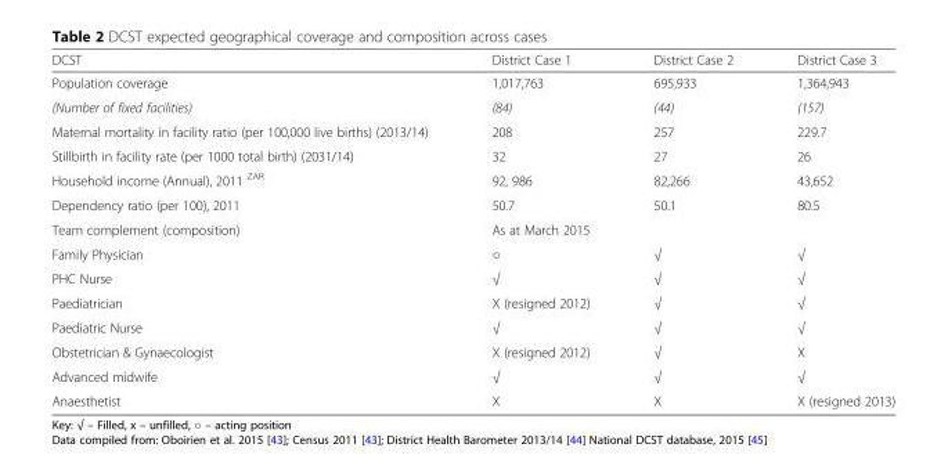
<table><thead><tr><td>DCST</td><td>District Case 1</td><td>District Case 2</td><td>District Case 3</td></tr></thead><tbody><tr><td>Population coverage</td><td>1,017,763</td><td>695,933</td><td>1,364,943</td></tr><tr><td>(Number of fixed facilities)</td><td>(84)</td><td>(44)</td><td>(157)</td></tr><tr><td>Maternal mortality in facility ratio (per 100,000 live births) (2013/14)</td><td>208</td><td>257</td><td>229.7</td></tr><tr><td>Stillbirth in facility rate (per 1000 total birth) (2031/14)</td><td>32</td><td>27</td><td>26</td></tr><tr><td>Household income (Annual), 2011 <sup>ZAR</sup></td><td>92, 986</td><td>82,266</td><td>43,652</td></tr><tr><td>Dependency ratio (per 100), 2011</td><td>50.7</td><td>50.1</td><td>80.5</td></tr><tr><td>Team complement (composition)</td><td colspan="3">As at March 2015</td></tr><tr><td>Family Physician</td><td>○</td><td>√</td><td>√</td></tr><tr><td>PHC Nurse</td><td>√</td><td>√</td><td>√</td></tr><tr><td>Paediatrician</td><td>X (resigned 2012)</td><td>√</td><td>√</td></tr><tr><td>Paediatric Nurse</td><td>√</td><td>√</td><td>√</td></tr><tr><td>Obstetrician &amp; Gynaecologist</td><td>X (resigned 2012)</td><td>√</td><td>X</td></tr><tr><td>Advanced midwife</td><td>√</td><td>√</td><td>√</td></tr><tr><td>Anaesthetist</td><td>X</td><td>X</td><td>X (resigned 2013)</td></tr></tbody></table>